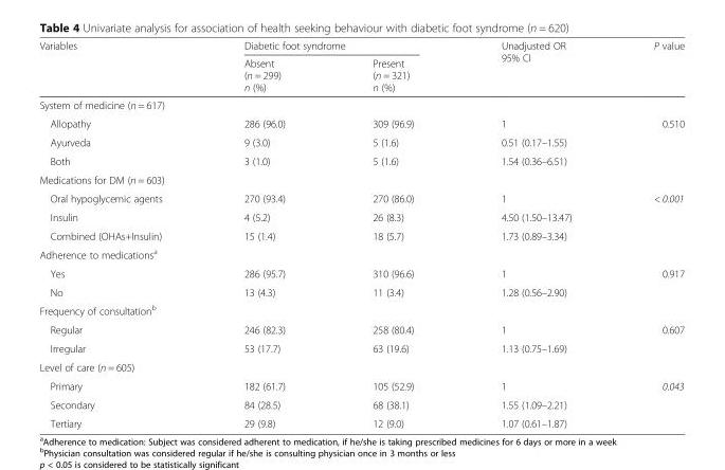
<table><thead><tr><td rowspan="2">Variables</td><td colspan="2">Diabetic foot syndrome</td><td rowspan="2">Unadjusted OR 95% CI</td><td rowspan="2">P value</td></tr><tr><td>Absent (n = 299) n (%)</td><td>Present (n = 321) n (%)</td></tr></thead><tbody><tr><td colspan="5">System of medicine (n = 617)</td></tr><tr><td>Allopathy</td><td>286 (96.0)</td><td>309 (96.9)</td><td>1</td><td rowspan="3">0.510</td></tr><tr><td>Ayurveda</td><td>9 (3.0)</td><td>5 (1.6)</td><td>0.51 (0.17–1.55)</td></tr><tr><td>Both</td><td>3 (1.0)</td><td>5 (1.6)</td><td>1.54 (0.36–6.51)</td></tr><tr><td colspan="5">Medications for DM (n = 603)</td></tr><tr><td>Oral hypoglycemic agents</td><td>270 (93.4)</td><td>270 (86.0)</td><td>1</td><td rowspan="3">&lt; 0.001</td></tr><tr><td>Insulin</td><td>4 (5.2)</td><td>26 (8.3)</td><td>4.50 (1.50–13.47)</td></tr><tr><td>Combined (OHAs+Insulin)</td><td>15 (1.4)</td><td>18 (5.7)</td><td>1.73 (0.89–3.34)</td></tr><tr><td colspan="5">Adherence to medications<sup>a</sup></td></tr><tr><td>Yes</td><td>286 (95.7)</td><td>310 (96.6)</td><td>1</td><td rowspan="2">0.917</td></tr><tr><td>No</td><td>13 (4.3)</td><td>11 (3.4)</td><td>1.28 (0.56–2.90)</td></tr><tr><td colspan="5">Frequency of consultation<sup>b</sup></td></tr><tr><td>Regular</td><td>246 (82.3)</td><td>258 (80.4)</td><td>1</td><td rowspan="2">0.607</td></tr><tr><td>Irregular</td><td>53 (17.7)</td><td>63 (19.6)</td><td>1.13 (0.75–1.69)</td></tr><tr><td colspan="5">Level of care (n = 605)</td></tr><tr><td>Primary</td><td>182 (61.7)</td><td>105 (52.9)</td><td>1</td><td rowspan="3">0.043</td></tr><tr><td>Secondary</td><td>84 (28.5)</td><td>68 (38.1)</td><td>1.55 (1.09–2.21)</td></tr><tr><td>Tertiary</td><td>29 (9.8)</td><td>12 (9.0)</td><td>1.07 (0.61–1.87)</td></tr></tbody></table>